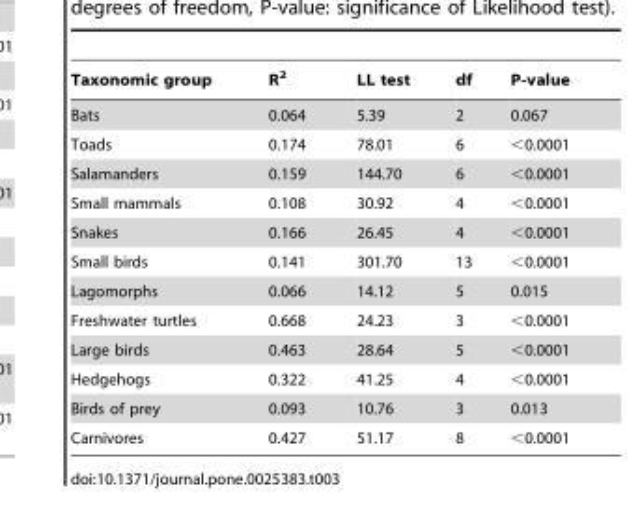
<table><thead><tr><td>Taxonomic group</td><td>R<sup>2</sup></td><td>LL test</td><td>df</td><td>P-value</td></tr></thead><tbody><tr><td>Bats</td><td>0.064</td><td>5.39</td><td>2</td><td>0.067</td></tr><tr><td>Toads</td><td>0.174</td><td>78.01</td><td>6</td><td>&lt;0.0001</td></tr><tr><td>Salamanders</td><td>0.159</td><td>144.70</td><td>6</td><td>&lt;0.0001</td></tr><tr><td>Small mammals</td><td>0.108</td><td>30.92</td><td>4</td><td>&lt;0.0001</td></tr><tr><td>Snakes</td><td>0.166</td><td>26.45</td><td>4</td><td>&lt;0.0001</td></tr><tr><td>Small birds</td><td>0.141</td><td>301.70</td><td>13</td><td>&lt;0.0001</td></tr><tr><td>Lagomorphs</td><td>0.066</td><td>14.12</td><td>5</td><td>0.015</td></tr><tr><td>Freshwater turtles</td><td>0.668</td><td>24.23</td><td>3</td><td>&lt;0.0001</td></tr><tr><td>Large birds</td><td>0.463</td><td>28.64</td><td>5</td><td>&lt;0.0001</td></tr><tr><td>Hedgehogs</td><td>0.322</td><td>41.25</td><td>4</td><td>&lt;0.0001</td></tr><tr><td>Birds of prey</td><td>0.093</td><td>10.76</td><td>3</td><td>0.013</td></tr><tr><td>Carnivores</td><td>0.427</td><td>51.17</td><td>8</td><td>&lt;0.0001</td></tr></tbody></table>